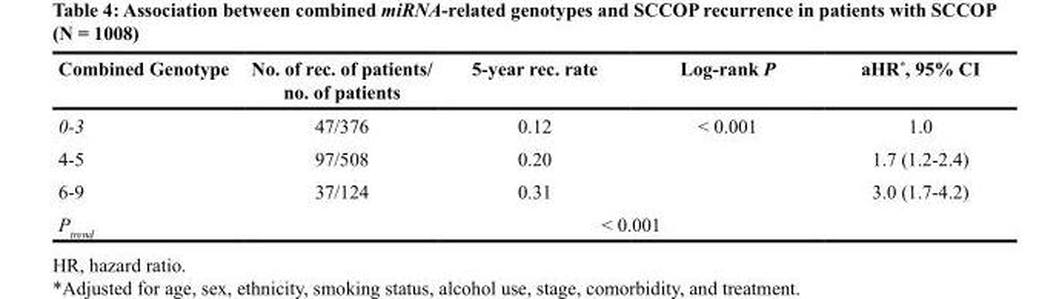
<table><thead><tr><td>Combined Genotype</td><td>No. of rec. of patients/ no. of patients</td><td>5-year rec. rate</td><td></td><td>Log-rank P</td><td>aHR*, 95% CI</td></tr></thead><tbody><tr><td>0-3</td><td>47/376</td><td>0.12</td><td></td><td>&lt; 0.001</td><td>1.0</td></tr><tr><td>4-5</td><td>97/508</td><td>0.20</td><td></td><td></td><td>1.7 (1.2-2.4)</td></tr><tr><td>6-9</td><td>37/124</td><td>0.31</td><td></td><td></td><td>3.0 (1.7-4.2)</td></tr><tr><td>P<sub>trend</sub></td><td></td><td></td><td>&lt; 0.001</td><td></td><td></td></tr></tbody></table>